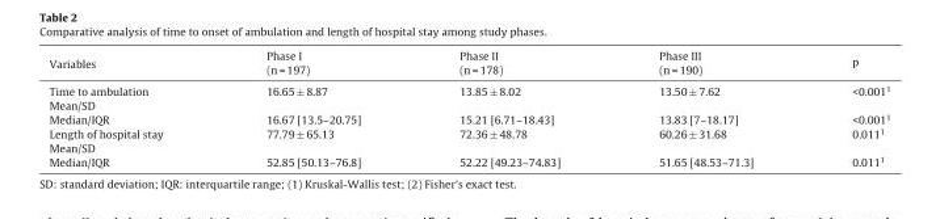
<table><thead><tr><td rowspan="2">Variables</td><td rowspan="2">Phase I (n = 197)</td><td rowspan="2">Phase II (n = 178)</td><td rowspan="2">Phase III (n = 190)</td><td rowspan="2">p</td></tr><tr></tr></thead><tbody><tr><td>Time to ambulation Mean/SD</td><td>16.65 ± 8.87</td><td>13.85 ± 8.02</td><td>13.50 ± 7.62</td><td>&lt;0.001<sup>1</sup></td></tr><tr><td>Median/IQR</td><td>16.67 [13.5–20.75]</td><td>15.21 [6.71–18.43]</td><td>13.83 [7–18.17]</td><td>&lt;0.001<sup>1</sup></td></tr><tr><td>Length of hospital stay Mean/SD</td><td>77.79 ± 65.13</td><td>72.36 ± 48.78</td><td>60.26 ± 31.68</td><td>0.011<sup>1</sup></td></tr><tr><td>Median/IQR</td><td>52.85 [50.13–76.8]</td><td>52.22 [49.23–74.83]</td><td>51.65 [48.53–71.3]</td><td>0.011<sup>1</sup></td></tr></tbody></table>